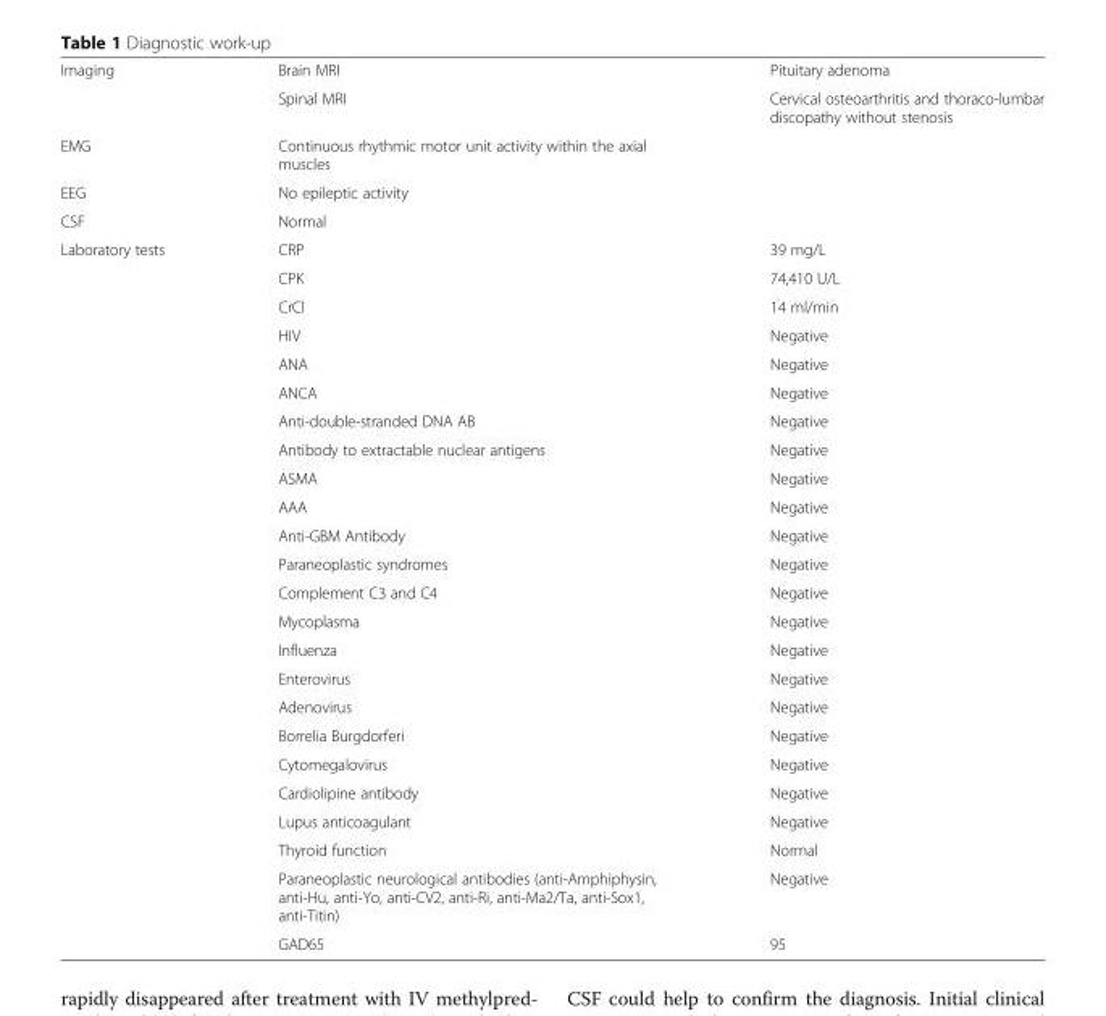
<table><tbody><tr><td rowspan="2">Imaging</td><td>Brain MRI</td><td>Pituitary adenoma</td></tr><tr><td>Spinal MRI</td><td>Cervical osteoarthritis and thoraco-lumbar discopathy without stenosis</td></tr><tr><td>EMG</td><td colspan="2">Continuous rhythmic motor unit activity within the axial muscles</td></tr><tr><td>EEG</td><td colspan="2">No epileptic activity</td></tr><tr><td>CSF</td><td colspan="2">Normal</td></tr><tr><td rowspan="24">Laboratory tests</td><td>CRP</td><td>39 mg/L</td></tr><tr><td>CPK</td><td>74,410 U/L</td></tr><tr><td>CrCl</td><td>14 ml/min</td></tr><tr><td>HIV</td><td>Negative</td></tr><tr><td>ANA</td><td>Negative</td></tr><tr><td>ANCA</td><td>Negative</td></tr><tr><td>Anti-double-stranded DNA AB</td><td>Negative</td></tr><tr><td>Antibody to extractable nuclear antigens</td><td>Negative</td></tr><tr><td>ASMA</td><td>Negative</td></tr><tr><td>AAA</td><td>Negative</td></tr><tr><td>Anti-GBM Antibody</td><td>Negative</td></tr><tr><td>Paraneoplastic syndromes</td><td>Negative</td></tr><tr><td>Complement C3 and C4</td><td>Negative</td></tr><tr><td>Mycoplasma</td><td>Negative</td></tr><tr><td>Influenza</td><td>Negative</td></tr><tr><td>Enterovirus</td><td>Negative</td></tr><tr><td>Adenovirus</td><td>Negative</td></tr><tr><td>Borrelia Burgdorferi</td><td>Negative</td></tr><tr><td>Cytomegalovirus</td><td>Negative</td></tr><tr><td>Cardiolipine antibody</td><td>Negative</td></tr><tr><td>Lupus anticoagulant</td><td>Negative</td></tr><tr><td>Thyroid function</td><td>Normal</td></tr><tr><td>Paraneoplastic neurological antibodies (anti-Amphiphysin, anti-Hu, anti-Yo, anti-CV2, anti-Ri, anti-Ma2/Ta, anti-Sox1, anti-Titin)</td><td>Negative</td></tr><tr><td>GAD65</td><td>95</td></tr></tbody></table>